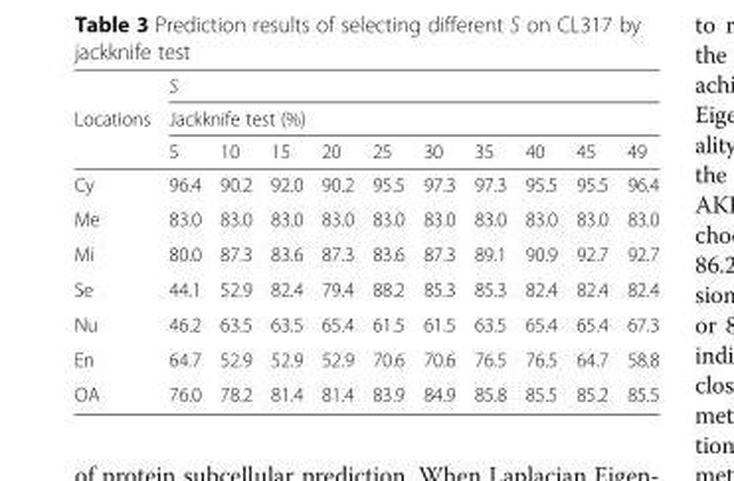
<table><thead><tr><td rowspan="3">Locations</td><td rowspan="2" colspan="10">S Jackknife test (%)</td></tr><tr></tr><tr><td>5</td><td>10</td><td>15</td><td>20</td><td>25</td><td>30</td><td>35</td><td>40</td><td>45</td><td>49</td></tr></thead><tbody><tr><td>Cy</td><td>96.4</td><td>90.2</td><td>92.0</td><td>90.2</td><td>95.5</td><td>97.3</td><td>97.3</td><td>95.5</td><td>95.5</td><td>96.4</td></tr><tr><td>Me</td><td>83.0</td><td>83.0</td><td>83.0</td><td>83.0</td><td>83.0</td><td>83.0</td><td>83.0</td><td>83.0</td><td>83.0</td><td>83.0</td></tr><tr><td>Mi</td><td>80.0</td><td>87.3</td><td>83.6</td><td>87.3</td><td>83.6</td><td>87.3</td><td>89.1</td><td>90.9</td><td>92.7</td><td>92.7</td></tr><tr><td>Se</td><td>44.1</td><td>52.9</td><td>82.4</td><td>79.4</td><td>88.2</td><td>85.3</td><td>85.3</td><td>82.4</td><td>82.4</td><td>82.4</td></tr><tr><td>Nu</td><td>46.2</td><td>63.5</td><td>63.5</td><td>65.4</td><td>61.5</td><td>61.5</td><td>63.5</td><td>65.4</td><td>65.4</td><td>67.3</td></tr><tr><td>En</td><td>64.7</td><td>52.9</td><td>52.9</td><td>52.9</td><td>70.6</td><td>70.6</td><td>76.5</td><td>76.5</td><td>64.7</td><td>58.8</td></tr><tr><td>OA</td><td>76.0</td><td>78.2</td><td>81.4</td><td>81.4</td><td>83.9</td><td>84.9</td><td>85.8</td><td>85.5</td><td>85.2</td><td>85.5</td></tr></tbody></table>